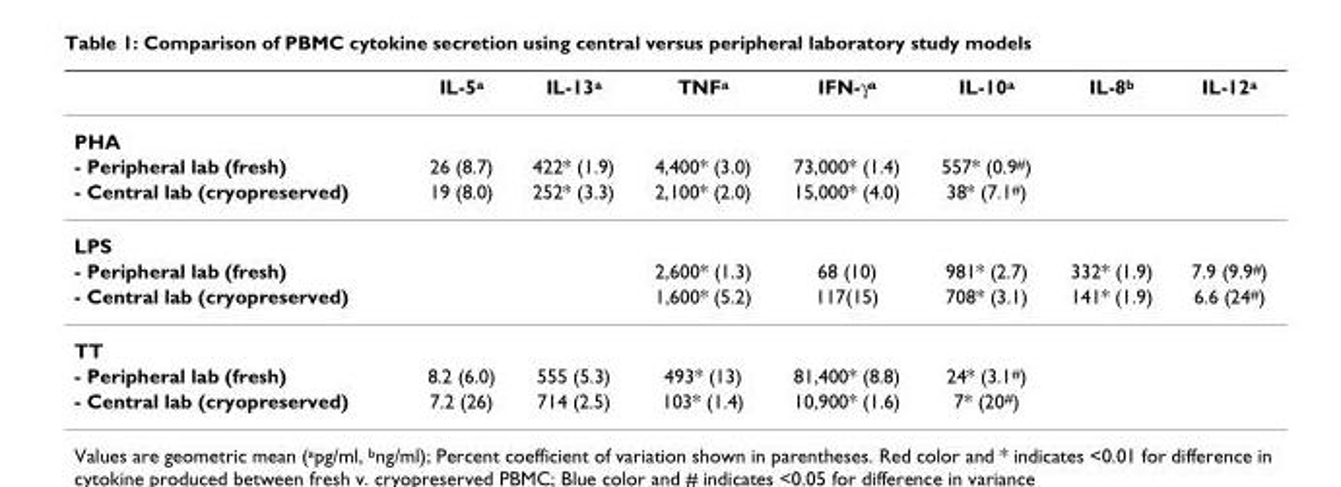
<table><thead><tr><td></td><td>IL-5<sup>a</sup></td><td>IL-13<sup>a</sup></td><td>TNF<sup>a</sup></td><td>IFN-γ<sup>a</sup></td><td>IL-10<sup>a</sup></td><td>IL-8<sup>b</sup></td><td>IL-12<sup>a</sup></td></tr></thead><tbody><tr><td colspan="8">PHA</td></tr><tr><td>- Peripheral lab (fresh)</td><td>26 (8.7)</td><td>422* (1.9)</td><td>4,400* (3.0)</td><td>73,000* (1.4)</td><td>557* (0.9<sup>#</sup>)</td><td></td><td></td></tr><tr><td>- Central lab (cryopreserved)</td><td>19 (8.0)</td><td>252* (3.3)</td><td>2,100* (2.0)</td><td>15,000* (4.0)</td><td>38* (7.1<sup>#</sup>)</td><td></td><td></td></tr><tr><td colspan="8">LPS</td></tr><tr><td>- Peripheral lab (fresh)</td><td></td><td></td><td>2,600* (1.3)</td><td>68 (10)</td><td>981* (2.7)</td><td>332* (1.9)</td><td>7.9 (9.9<sup>#</sup>)</td></tr><tr><td>- Central lab (cryopreserved)</td><td></td><td></td><td>1,600* (5.2)</td><td>117(15)</td><td>708* (3.1)</td><td>141* (1.9)</td><td>6.6 (24<sup>#</sup>)</td></tr><tr><td colspan="8">TT</td></tr><tr><td>- Peripheral lab (fresh)</td><td>8.2 (6.0)</td><td>555 (5.3)</td><td>493* (13)</td><td>81,400* (8.8)</td><td>24* (3.1<sup>#</sup>)</td><td></td><td></td></tr><tr><td>- Central lab (cryopreserved)</td><td>7.2 (26)</td><td>714 (2.5)</td><td>103* (1.4)</td><td>10,900* (1.6)</td><td>7* (20<sup>#</sup>)</td><td></td><td></td></tr></tbody></table>